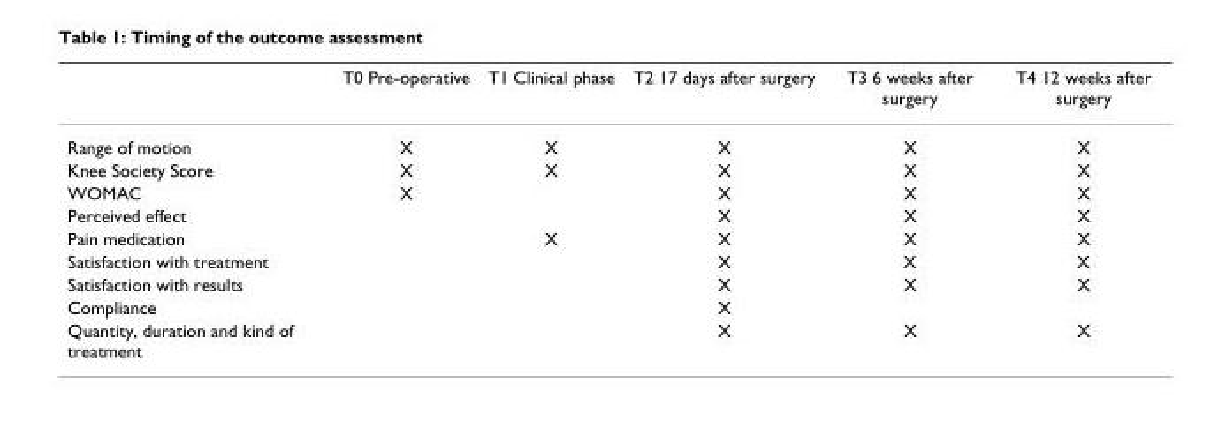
<table><thead><tr><td></td><td>T0 Pre-operative</td><td>T1 Clinical phase</td><td>T2 17 days after surgery</td><td>T3 6 weeks after surgery</td><td>T4 12 weeks after surgery</td></tr></thead><tbody><tr><td>Range of motion</td><td>X</td><td>X</td><td>X</td><td>X</td><td>X</td></tr><tr><td>Knee Society Score</td><td>X</td><td>X</td><td>X</td><td>X</td><td>X</td></tr><tr><td>WOMAC</td><td>X</td><td></td><td>X</td><td>X</td><td>X</td></tr><tr><td>Perceived effect</td><td></td><td></td><td>X</td><td>X</td><td>X</td></tr><tr><td>Pain medication</td><td></td><td>X</td><td>X</td><td>X</td><td>X</td></tr><tr><td>Satisfaction with treatment</td><td></td><td></td><td>X</td><td>X</td><td>X</td></tr><tr><td>Satisfaction with results</td><td></td><td></td><td>X</td><td>X</td><td>X</td></tr><tr><td>Compliance</td><td></td><td></td><td>X</td><td></td><td></td></tr><tr><td>Quantity, duration and kind of treatment</td><td></td><td></td><td>X</td><td>X</td><td>X</td></tr></tbody></table>